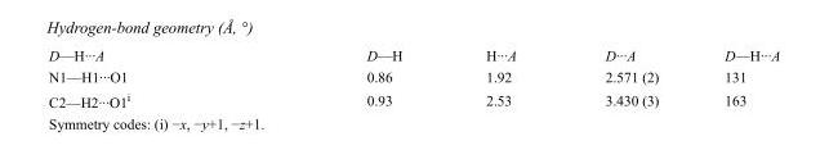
<table><tbody><tr><td>D—H···A</td><td>D—H</td><td>H···A</td><td>D···A</td><td>D—H···A</td></tr><tr><td>N1—H1···O1</td><td>0.86</td><td>1.92</td><td>2.571 (2)</td><td>131</td></tr><tr><td>C2—H2···O1<sup>i</sup></td><td>0.93</td><td>2.53</td><td>3.430 (3)</td><td>163</td></tr></tbody></table>